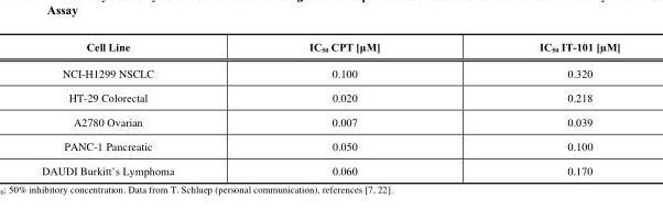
<table><thead><tr><td>Cell Line</td><td>IC<sub>50</sub> CPT [μM]</td><td>IC<sub>50</sub> IT-101 [µM]</td></tr></thead><tbody><tr><td>NCI-H1299 NSCLC</td><td>0.100</td><td>0.320</td></tr><tr><td>HT-29 Colorectal</td><td>0.020</td><td>0.218</td></tr><tr><td>A2780 Ovarian</td><td>0.007</td><td>0.039</td></tr><tr><td>PANC-1 Pancreatic</td><td>0.050</td><td>0.100</td></tr><tr><td>DAUDI Burkitt’s Lymphoma</td><td>0.060</td><td>0.170</td></tr></tbody></table>